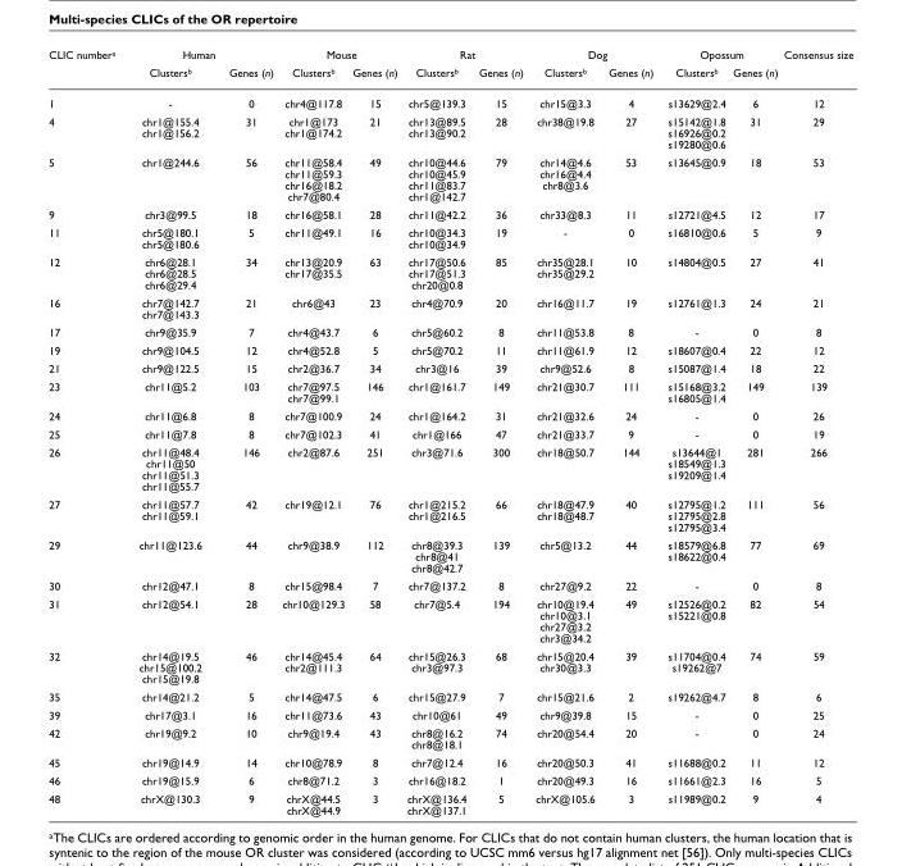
<table><thead><tr><td rowspan="2">CLIC numbera</td><td colspan="2">Human</td><td colspan="2">Mouse</td><td colspan="2">Rat</td><td colspan="2">Dog</td><td colspan="2">Opossum</td><td rowspan="2">Consensus size</td></tr><tr><td>Clustersb</td><td>Genes (n)</td><td>Clustersb</td><td>Genes (n)</td><td>Clustersb</td><td>Genes (n)</td><td>Clustersb</td><td>Genes (n)</td><td>Clustersb</td><td>Genes (n)</td></tr></thead><tbody><tr><td>1</td><td>-</td><td>0</td><td>chr4@117.8</td><td>15</td><td>chr5@139.3</td><td>15</td><td>chr15@3.3</td><td>4</td><td>s13629@2.4</td><td>6</td><td>12</td></tr><tr><td>4</td><td>chr1@155.4 chr1@156.2</td><td>31</td><td>chr1@173 chr1@174.2</td><td>21</td><td>chr13@89.5 chr13@90.2</td><td>28</td><td>chr38@19.8</td><td>27</td><td>s15142@1.8 s16926@0.2 s19280@0.6</td><td>31</td><td>29</td></tr><tr><td>5</td><td>chr1@244.6</td><td>56</td><td>chr11@58.4 chr11@59.3 chr16@18.2 chr7@80.4</td><td>49</td><td>chr10@44.6 chr10@45.9 chr11@83.7 chr1@142.7</td><td>79</td><td>chr14@4.6 chr16@4.4 chr8@3.6</td><td>53</td><td>s13645@0.9</td><td>18</td><td>53</td></tr><tr><td>9</td><td>chr3@99.5</td><td>18</td><td>chr16@58.1</td><td>28</td><td>chr11@42.2</td><td>36</td><td>chr33@8.3</td><td>11</td><td>s12721@4.5</td><td>12</td><td>17</td></tr><tr><td>11</td><td>chr5@180.1 chr5@180.6</td><td>5</td><td>chr11@49.1</td><td>16</td><td>chr10@34.3 chr10@34.9</td><td>19</td><td>-</td><td>0</td><td>s16810@0.6</td><td>5</td><td>9</td></tr><tr><td>12</td><td>chr6@28.1 chr6@28.5 chr6@29.4</td><td>34</td><td>chr13@20.9 chr17@35.5</td><td>63</td><td>chr17@50.6 chr17@51.3 chr20@0.8</td><td>85</td><td>chr35@28.1 chr35@29.2</td><td>10</td><td>s14804@0.5</td><td>27</td><td>41</td></tr><tr><td>16</td><td>chr7@142.7 chr7@143.3</td><td>21</td><td>chr6@43</td><td>23</td><td>chr4@70.9</td><td>20</td><td>chr16@11.7</td><td>19</td><td>s12761@1.3</td><td>24</td><td>21</td></tr><tr><td>17</td><td>chr9@35.9</td><td>7</td><td>chr4@43.7</td><td>6</td><td>chr5@60.2</td><td>8</td><td>chr11@53.8</td><td>8</td><td>-</td><td>0</td><td>8</td></tr><tr><td>19</td><td>chr9@104.5</td><td>12</td><td>chr4@52.8</td><td>5</td><td>chr5@70.2</td><td>11</td><td>chr11@61.9</td><td>12</td><td>s18607@0.4</td><td>22</td><td>12</td></tr><tr><td>21</td><td>chr9@122.5</td><td>15</td><td>chr2@36.7</td><td>34</td><td>chr3@16</td><td>39</td><td>chr9@52.6</td><td>8</td><td>s15087@1.4</td><td>18</td><td>22</td></tr><tr><td>23</td><td>chr11@5.2</td><td>103</td><td>chr7@97.5 chr7@99.1</td><td>146</td><td>chr1@161.7</td><td>149</td><td>chr21@30.7</td><td>111</td><td>s15168@3.2 s16805@1.4</td><td>149</td><td>139</td></tr><tr><td>24</td><td>chr11@6.8</td><td>8</td><td>chr7@100.9</td><td>24</td><td>chr1@164.2</td><td>31</td><td>chr21@32.6</td><td>24</td><td>-</td><td>0</td><td>26</td></tr><tr><td>25</td><td>chr11@7.8</td><td>8</td><td>chr7@102.3</td><td>41</td><td>chr1@166</td><td>47</td><td>chr21@33.7</td><td>9</td><td>-</td><td>0</td><td>19</td></tr><tr><td>26</td><td>chr11@48.4 chr11@50 chr11@51.3 chr11@55.7</td><td>146</td><td>chr2@87.6</td><td>251</td><td>chr3@71.6</td><td>300</td><td>chr18@50.7</td><td>144</td><td>s13644@1 s18549@1.3 s19209@1.4</td><td>281</td><td>266</td></tr><tr><td>27</td><td>chr11@57.7 chr11@59.1</td><td>42</td><td>chr19@12.1</td><td>76</td><td>chr1@215.2 chr1@216.5</td><td>66</td><td>chr18@47.9 chr18@48.7</td><td>40</td><td>s12795@1.2 s12795@2.8 s12795@3.4</td><td>111</td><td>56</td></tr><tr><td>29</td><td>chr11@123.6</td><td>44</td><td>chr9@38.9</td><td>112</td><td>chr8@39.3 chr8@41 chr8@42.7</td><td>139</td><td>chr5@13.2</td><td>44</td><td>s18579@6.8 s18622@0.4</td><td>77</td><td>69</td></tr><tr><td>30</td><td>chr12@47.1</td><td>8</td><td>chr15@98.4</td><td>7</td><td>chr7@137.2</td><td>8</td><td>chr27@9.2</td><td>22</td><td>-</td><td>0</td><td>8</td></tr><tr><td>31</td><td>chr12@54.1</td><td>28</td><td>chr10@129.3</td><td>58</td><td>chr7@5.4</td><td>194</td><td>chr10@19.4 chr10@3.1 chr27@3.2 chr3@34.2</td><td>49</td><td>s12526@0.2 s15221@0.8</td><td>82</td><td>54</td></tr><tr><td>32</td><td>chr14@19.5 chr15@100.2 chr15@19.8</td><td>46</td><td>chr14@45.4 chr2@111.3</td><td>64</td><td>chr15@26.3 chr3@97.3</td><td>68</td><td>chr15@20.4 chr30@3.3</td><td>39</td><td>s11704@0.4 s19262@7</td><td>74</td><td>59</td></tr><tr><td>35</td><td>chr14@21.2</td><td>5</td><td>chr14@47.5</td><td>6</td><td>chr15@27.9</td><td>7</td><td>chr15@21.6</td><td>2</td><td>s19262@4.7</td><td>8</td><td>6</td></tr><tr><td>39</td><td>chr17@3.1</td><td>16</td><td>chr11@73.6</td><td>43</td><td>chr10@61</td><td>49</td><td>chr9@39.8</td><td>15</td><td>-</td><td>0</td><td>25</td></tr><tr><td>42</td><td>chr19@9.2</td><td>10</td><td>chr9@19.4</td><td>43</td><td>chr8@16.2 chr8@18.1</td><td>74</td><td>chr20@54.4</td><td>20</td><td>-</td><td>0</td><td>24</td></tr><tr><td>45</td><td>chr19@14.9</td><td>14</td><td>chr10@78.9</td><td>8</td><td>chr7@12.4</td><td>16</td><td>chr20@50.3</td><td>41</td><td>s11688@0.2</td><td>11</td><td>12</td></tr><tr><td>46</td><td>chr19@15.9</td><td>6</td><td>chr8@71.2</td><td>3</td><td>chr16@18.2</td><td>1</td><td>chr20@49.3</td><td>16</td><td>s11661@2.3</td><td>16</td><td>5</td></tr><tr><td>48</td><td>chrX@130.3</td><td>9</td><td>chrX@44.5 chrX@44.9</td><td>3</td><td>chrX@136.4 chrX@137.1</td><td>5</td><td>chrX@105.6</td><td>3</td><td>s11989@0.2</td><td>9</td><td>4</td></tr></tbody></table>